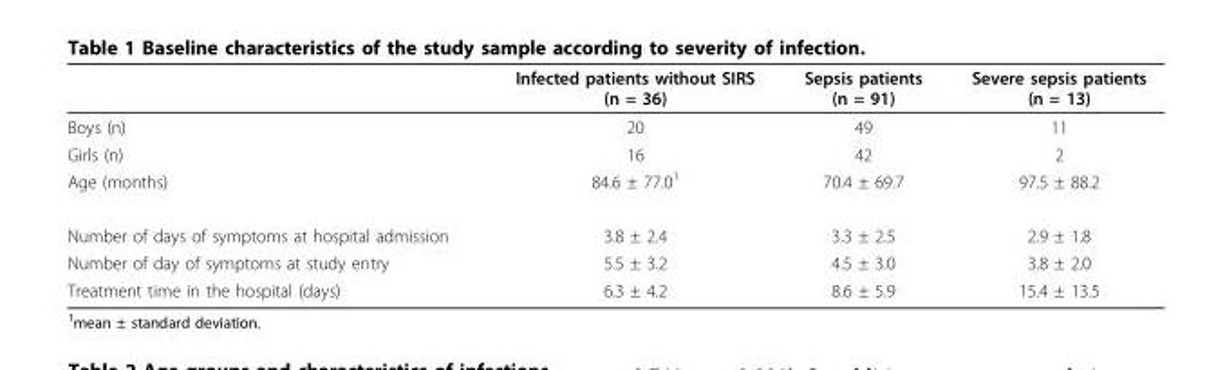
<table><thead><tr><td></td><td>Infected patients without SIRS (n = 36)</td><td>Sepsis patients (n = 91)</td><td>Severe sepsis patients (n = 13)</td></tr></thead><tbody><tr><td>Boys (n)</td><td>20</td><td>49</td><td>11</td></tr><tr><td>Girls (n)</td><td>16</td><td>42</td><td>2</td></tr><tr><td>Age (months)</td><td>84.6 ± 77.0<sup>1</sup></td><td>70.4 ± 69.7</td><td>97.5 ± 88.2</td></tr><tr><td>Number of days of symptoms at hospital admission</td><td>3.8 ± 2.4</td><td>3.3 ± 2.5</td><td>2.9 ± 1.8</td></tr><tr><td>Number of day of symptoms at study entry</td><td>5.5 ± 3.2</td><td>4.5 ± 3.0</td><td>3.8 ± 2.0</td></tr><tr><td>Treatment time in the hospital (days)</td><td>6.3 ± 4.2</td><td>8.6 ± 5.9</td><td>15.4 ± 13.5</td></tr></tbody></table>